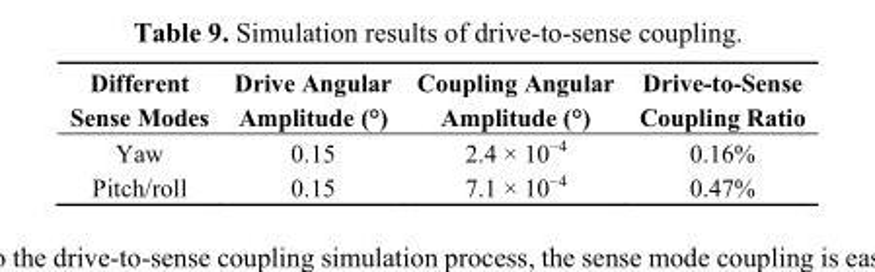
<table><thead><tr><td>Different Sense Modes</td><td>Drive Angular Amplitude (°)</td><td>Coupling Angular Amplitude (°)</td><td>Drive-to-Sense Coupling Ratio</td></tr></thead><tbody><tr><td>Yaw</td><td>0.15</td><td>2.4 × 10<sup>−4</sup></td><td>0.16%</td></tr><tr><td>Pitch/roll</td><td>0.15</td><td>7.1 × 10<sup>−4</sup></td><td>0.47%</td></tr></tbody></table>